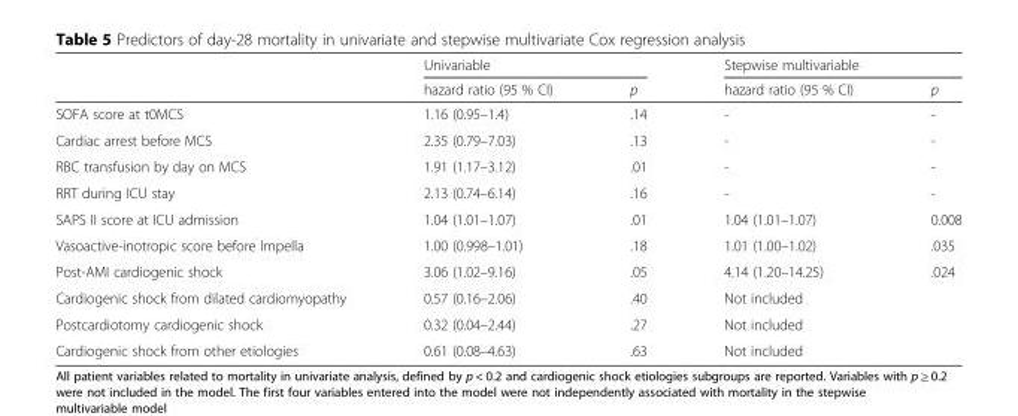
<table><thead><tr><td rowspan="2"></td><td colspan="2">Univariable</td><td colspan="2">Stepwise multivariable</td></tr><tr><td>hazard ratio (95 % CI)</td><td>p</td><td>hazard ratio (95 % CI)</td><td>p</td></tr></thead><tbody><tr><td>SOFA score at t0MCS</td><td>1.16 (0.95–1.4)</td><td>.14</td><td>-</td><td>-</td></tr><tr><td>Cardiac arrest before MCS</td><td>2.35 (0.79–7.03)</td><td>.13</td><td>-</td><td>-</td></tr><tr><td>RBC transfusion by day on MCS</td><td>1.91 (1.17–3.12)</td><td>.01</td><td>-</td><td>-</td></tr><tr><td>RRT during ICU stay</td><td>2.13 (0.74–6.14)</td><td>.16</td><td>-</td><td>-</td></tr><tr><td>SAPS II score at ICU admission</td><td>1.04 (1.01–1.07)</td><td>.01</td><td>1.04 (1.01–1.07)</td><td>0.008</td></tr><tr><td>Vasoactive-inotropic score before Impella</td><td>1.00 (0.998–1.01)</td><td>.18</td><td>1.01 (1.00–1.02)</td><td>.035</td></tr><tr><td>Post-AMI cardiogenic shock</td><td>3.06 (1.02–9.16)</td><td>.05</td><td>4.14 (1.20–14.25)</td><td>.024</td></tr><tr><td>Cardiogenic shock from dilated cardiomyopathy</td><td>0.57 (0.16–2.06)</td><td>.40</td><td>Not included</td><td></td></tr><tr><td>Postcardiotomy cardiogenic shock</td><td>0.32 (0.04–2.44)</td><td>.27</td><td>Not included</td><td></td></tr><tr><td>Cardiogenic shock from other etiologies</td><td>0.61 (0.08–4.63)</td><td>.63</td><td>Not included</td><td></td></tr></tbody></table>